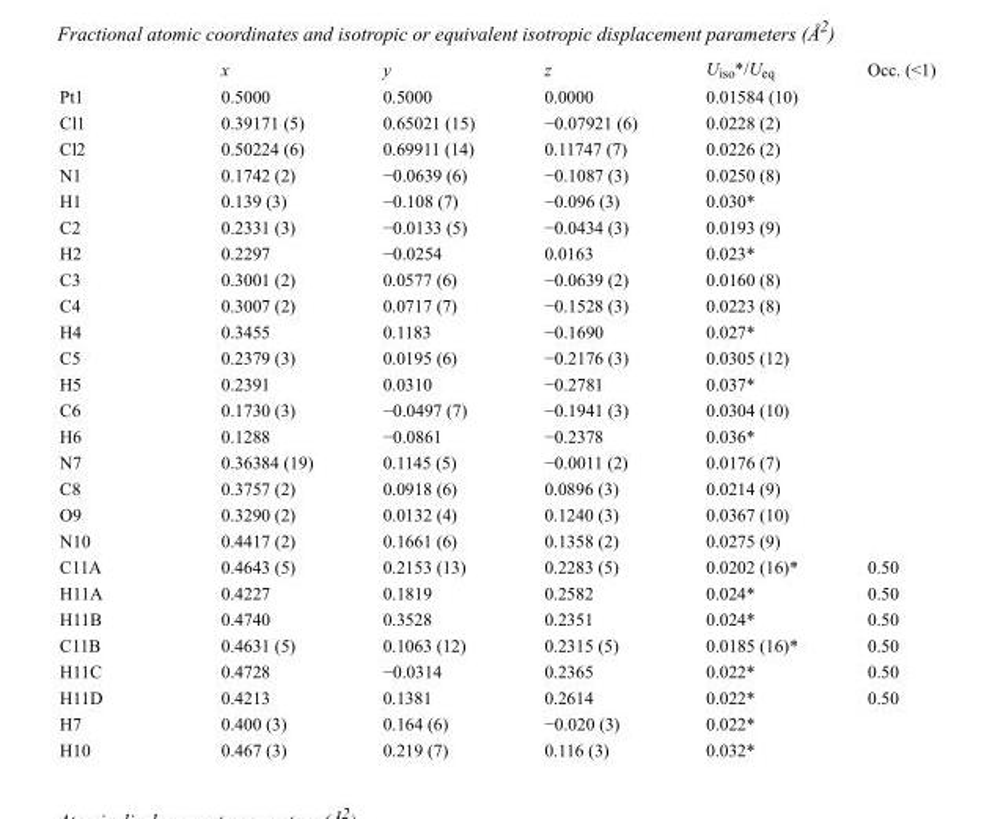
<table><thead><tr><td></td><td>x</td><td>y</td><td>z</td><td>U<sub>iso</sub>*/U<sub>eq</sub></td><td>Occ. (&lt;1)</td></tr></thead><tbody><tr><td>Pt1</td><td>0.5000</td><td>0.5000</td><td>0.0000</td><td>0.01584 (10)</td><td></td></tr><tr><td>Cl1</td><td>0.39171 (5)</td><td>0.65021 (15)</td><td>−0.07921 (6)</td><td>0.0228 (2)</td><td></td></tr><tr><td>Cl2</td><td>0.50224 (6)</td><td>0.69911 (14)</td><td>0.11747 (7)</td><td>0.0226 (2)</td><td></td></tr><tr><td>N1</td><td>0.1742 (2)</td><td>−0.0639 (6)</td><td>−0.1087 (3)</td><td>0.0250 (8)</td><td></td></tr><tr><td>H1</td><td>0.139 (3)</td><td>−0.108 (7)</td><td>−0.096 (3)</td><td>0.030*</td><td></td></tr><tr><td>C2</td><td>0.2331 (3)</td><td>−0.0133 (5)</td><td>−0.0434 (3)</td><td>0.0193 (9)</td><td></td></tr><tr><td>H2</td><td>0.2297</td><td>−0.0254</td><td>0.0163</td><td>0.023*</td><td></td></tr><tr><td>C3</td><td>0.3001 (2)</td><td>0.0577 (6)</td><td>−0.0639 (2)</td><td>0.0160 (8)</td><td></td></tr><tr><td>C4</td><td>0.3007 (2)</td><td>0.0717 (7)</td><td>−0.1528 (3)</td><td>0.0223 (8)</td><td></td></tr><tr><td>H4</td><td>0.3455</td><td>0.1183</td><td>−0.1690</td><td>0.027*</td><td></td></tr><tr><td>C5</td><td>0.2379 (3)</td><td>0.0195 (6)</td><td>−0.2176 (3)</td><td>0.0305 (12)</td><td></td></tr><tr><td>H5</td><td>0.2391</td><td>0.0310</td><td>−0.2781</td><td>0.037*</td><td></td></tr><tr><td>C6</td><td>0.1730 (3)</td><td>−0.0497 (7)</td><td>−0.1941 (3)</td><td>0.0304 (10)</td><td></td></tr><tr><td>H6</td><td>0.1288</td><td>−0.0861</td><td>−0.2378</td><td>0.036*</td><td></td></tr><tr><td>N7</td><td>0.36384 (19)</td><td>0.1145 (5)</td><td>−0.0011 (2)</td><td>0.0176 (7)</td><td></td></tr><tr><td>C8</td><td>0.3757 (2)</td><td>0.0918 (6)</td><td>0.0896 (3)</td><td>0.0214 (9)</td><td></td></tr><tr><td>O9</td><td>0.3290 (2)</td><td>0.0132 (4)</td><td>0.1240 (3)</td><td>0.0367 (10)</td><td></td></tr><tr><td>N10</td><td>0.4417 (2)</td><td>0.1661 (6)</td><td>0.1358 (2)</td><td>0.0275 (9)</td><td></td></tr><tr><td>C11A</td><td>0.4643 (5)</td><td>0.2153 (13)</td><td>0.2283 (5)</td><td>0.0202 (16)*</td><td>0.50</td></tr><tr><td>H11A</td><td>0.4227</td><td>0.1819</td><td>0.2582</td><td>0.024*</td><td>0.50</td></tr><tr><td>H11B</td><td>0.4740</td><td>0.3528</td><td>0.2351</td><td>0.024*</td><td>0.50</td></tr><tr><td>C11B</td><td>0.4631 (5)</td><td>0.1063 (12)</td><td>0.2315 (5)</td><td>0.0185 (16)*</td><td>0.50</td></tr><tr><td>H11C</td><td>0.4728</td><td>−0.0314</td><td>0.2365</td><td>0.022*</td><td>0.50</td></tr><tr><td>H11D</td><td>0.4213</td><td>0.1381</td><td>0.2614</td><td>0.022*</td><td>0.50</td></tr><tr><td>H7</td><td>0.400 (3)</td><td>0.164 (6)</td><td>−0.020 (3)</td><td>0.022*</td><td></td></tr><tr><td>H10</td><td>0.467 (3)</td><td>0.219 (7)</td><td>0.116 (3)</td><td>0.032*</td><td></td></tr></tbody></table>